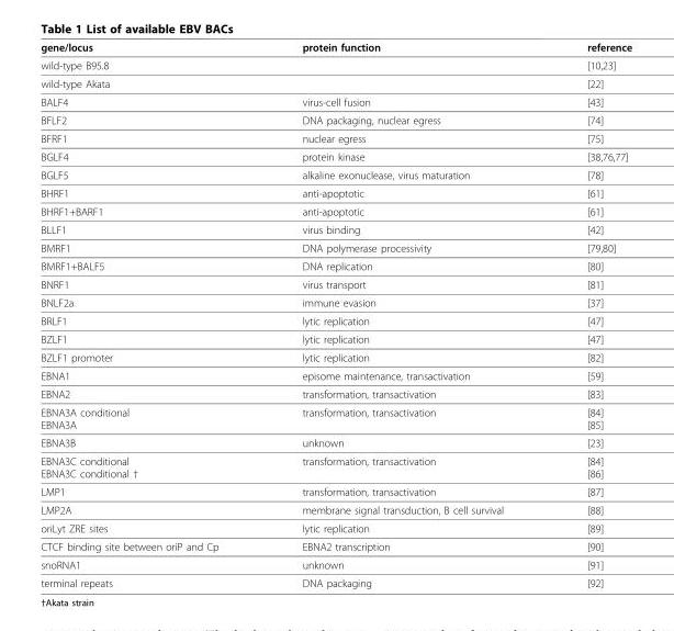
<table><thead><tr><td>gene/locus</td><td>protein function</td><td>reference</td></tr></thead><tbody><tr><td>wild-type B95.8</td><td></td><td>[10,23]</td></tr><tr><td>wild-type Akata</td><td></td><td>[22]</td></tr><tr><td>BALF4</td><td>virus-cell fusion</td><td>[43]</td></tr><tr><td>BFLF2</td><td>DNA packaging, nuclear egress</td><td>[74]</td></tr><tr><td>BFRF1</td><td>nuclear egress</td><td>[75]</td></tr><tr><td>BGLF4</td><td>protein kinase</td><td>[38,76,77]</td></tr><tr><td>BGLF5</td><td>alkaline exonuclease, virus maturation</td><td>[78]</td></tr><tr><td>BHRF1</td><td>anti-apoptotic</td><td>[61]</td></tr><tr><td>BHRF1+BARF1</td><td>anti-apoptotic</td><td>[61]</td></tr><tr><td>BLLF1</td><td>virus binding</td><td>[42]</td></tr><tr><td>BMRF1</td><td>DNA polymerase processivity</td><td>[79,80]</td></tr><tr><td>BMRF1+BALF5</td><td>DNA replication</td><td>[80]</td></tr><tr><td>BNRF1</td><td>virus transport</td><td>[81]</td></tr><tr><td>BNLF2a</td><td>immune evasion</td><td>[37]</td></tr><tr><td>BRLF1</td><td>lytic replication</td><td>[47]</td></tr><tr><td>BZLF1</td><td>lytic replication</td><td>[47]</td></tr><tr><td>BZLF1 promoter</td><td>lytic replication</td><td>[82]</td></tr><tr><td>EBNA1</td><td>episome maintenance, transactivation</td><td>[59]</td></tr><tr><td>EBNA2</td><td>transformation, transactivation</td><td>[83]</td></tr><tr><td>EBNA3A conditional EBNA3A</td><td>transformation, transactivation</td><td>[84] [85]</td></tr><tr><td>EBNA3B</td><td>unknown</td><td>[23]</td></tr><tr><td>EBNA3C conditional EBNA3C conditional †</td><td>transformation, transactivation</td><td>[84] [86]</td></tr><tr><td>LMP1</td><td>transformation, transactivation</td><td>[87]</td></tr><tr><td>LMP2A</td><td>membrane signal transduction, B cell survival</td><td>[88]</td></tr><tr><td>oriLyt ZRE sites</td><td>lytic replication</td><td>[89]</td></tr><tr><td>CTCF binding site between oriP and Cp</td><td>EBNA2 transcription</td><td>[90]</td></tr><tr><td>snoRNA1</td><td>unknown</td><td>[91]</td></tr><tr><td>terminal repeats</td><td>DNA packaging</td><td>[92]</td></tr></tbody></table>